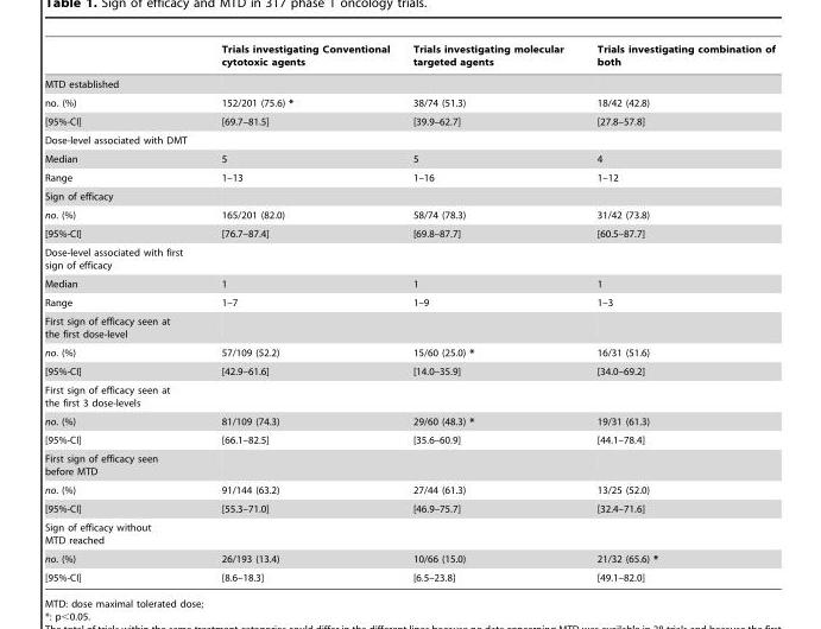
<table><thead><tr><td></td><td>Trials investigating Conventional cytotoxic agents</td><td>Trials investigating molecular targeted agents</td><td>Trials investigating combination of both</td></tr></thead><tbody><tr><td colspan="4">MTD established</td></tr><tr><td>no. (%)</td><td>152/201 (75.6) *</td><td>38/74 (51.3)</td><td>18/42 (42.8)</td></tr><tr><td>[95%-CI]</td><td>[69.7–81.5]</td><td>[39.9–62.7]</td><td>[27.8–57.8]</td></tr><tr><td colspan="4">Dose-level associated with DMT</td></tr><tr><td>Median</td><td>5</td><td>5</td><td>4</td></tr><tr><td>Range</td><td>1–13</td><td>1–16</td><td>1–12</td></tr><tr><td colspan="4">Sign of efficacy</td></tr><tr><td>no. (%)</td><td>165/201 (82.0)</td><td>58/74 (78.3)</td><td>31/42 (73.8)</td></tr><tr><td>[95%-CI]</td><td>[76.7–87.4]</td><td>[69.8–87.7]</td><td>[60.5–87.7]</td></tr><tr><td colspan="4">Dose-level associated with first sign of efficacy</td></tr><tr><td>Median</td><td>1</td><td>1</td><td>1</td></tr><tr><td>Range</td><td>1–7</td><td>1–9</td><td>1–3</td></tr><tr><td colspan="4">First sign of efficacy seen at the first dose-level</td></tr><tr><td>no. (%)</td><td>57/109 (52.2)</td><td>15/60 (25.0) *</td><td>16/31 (51.6)</td></tr><tr><td>[95%-CI]</td><td>[42.9–61.6]</td><td>[14.0–35.9]</td><td>[34.0–69.2]</td></tr><tr><td colspan="4">First sign of efficacy seen at the first 3 dose-levels</td></tr><tr><td>no. (%)</td><td>81/109 (74.3)</td><td>29/60 (48.3) *</td><td>19/31 (61.3)</td></tr><tr><td>[95%-CI]</td><td>[66.1–82.5]</td><td>[35.6–60.9]</td><td>[44.1–78.4]</td></tr><tr><td colspan="4">First sign of efficacy seen before MTD</td></tr><tr><td>no. (%)</td><td>91/144 (63.2)</td><td>27/44 (61.3)</td><td>13/25 (52.0)</td></tr><tr><td>[95%-CI]</td><td>[55.3–71.0]</td><td>[46.9–75.7]</td><td>[32.4–71.6]</td></tr><tr><td colspan="4">Sign of efficacy without MTD reached</td></tr><tr><td>no. (%)</td><td>26/193 (13.4)</td><td>10/66 (15.0)</td><td>21/32 (65.6) *</td></tr><tr><td>[95%-CI]</td><td>[8.6–18.3]</td><td>[6.5–23.8]</td><td>[49.1–82.0]</td></tr></tbody></table>